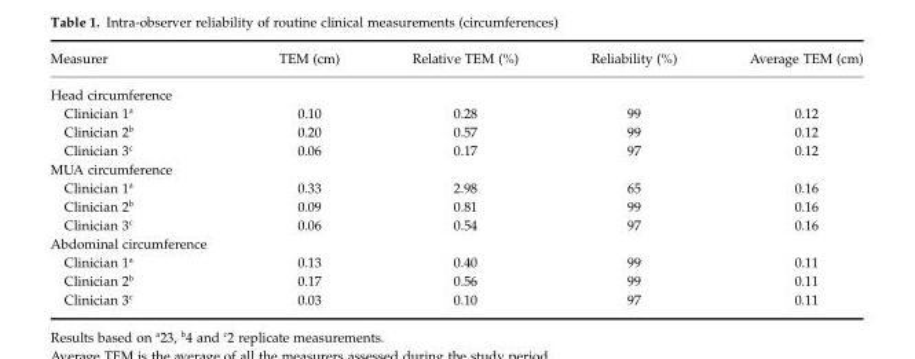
<table><thead><tr><td>Measurer</td><td>TEM (cm)</td><td>Relative TEM (%)</td><td>Reliability (%)</td><td>Average TEM (cm)</td></tr></thead><tbody><tr><td colspan="5">Head circumference</td></tr><tr><td>Clinician 1<sup>a</sup></td><td>0.10</td><td>0.28</td><td>99</td><td>0.12</td></tr><tr><td>Clinician 2<sup>b</sup></td><td>0.20</td><td>0.57</td><td>99</td><td>0.12</td></tr><tr><td>Clinician 3<sup>c</sup></td><td>0.06</td><td>0.17</td><td>97</td><td>0.12</td></tr><tr><td colspan="5">MUA circumference</td></tr><tr><td>Clinician 1<sup>a</sup></td><td>0.33</td><td>2.98</td><td>65</td><td>0.16</td></tr><tr><td>Clinician 2<sup>b</sup></td><td>0.09</td><td>0.81</td><td>99</td><td>0.16</td></tr><tr><td>Clinician 3<sup>c</sup></td><td>0.06</td><td>0.54</td><td>97</td><td>0.16</td></tr><tr><td colspan="5">Abdominal circumference</td></tr><tr><td>Clinician 1<sup>a</sup></td><td>0.13</td><td>0.40</td><td>99</td><td>0.11</td></tr><tr><td>Clinician 2<sup>b</sup></td><td>0.17</td><td>0.56</td><td>99</td><td>0.11</td></tr><tr><td>Clinician 3<sup>c</sup></td><td>0.03</td><td>0.10</td><td>97</td><td>0.11</td></tr></tbody></table>